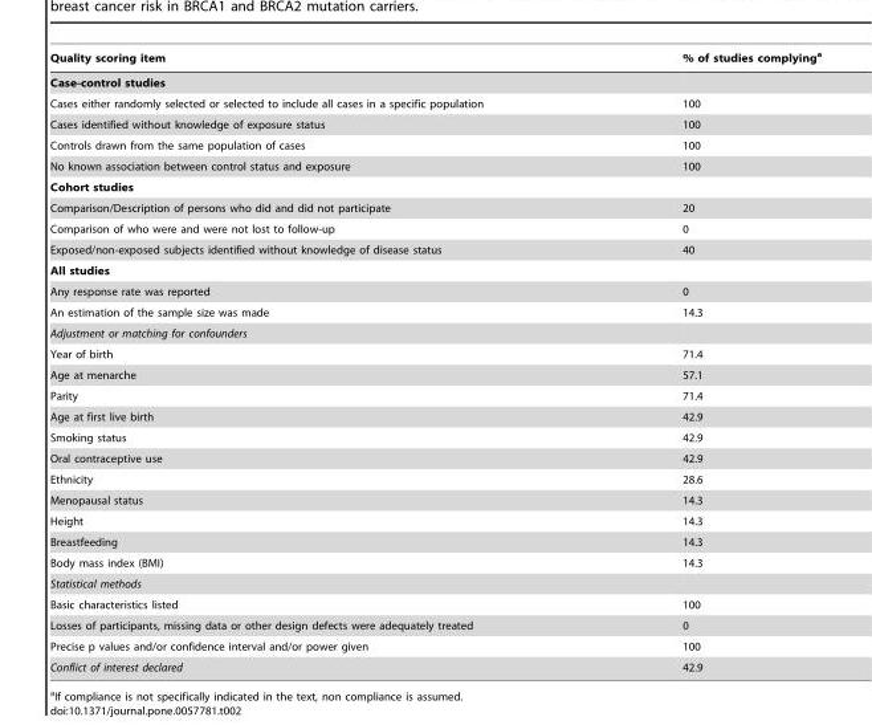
<table><thead><tr><td>Quality scoring item</td><td>% of studies complying<sup>a</sup></td></tr></thead><tbody><tr><td colspan="2">Case-control studies</td></tr><tr><td>Cases either randomly selected or selected to include all cases in a specific population</td><td>100</td></tr><tr><td>Cases identified without knowledge of exposure status</td><td>100</td></tr><tr><td>Controls drawn from the same population of cases</td><td>100</td></tr><tr><td>No known association between control status and exposure</td><td>100</td></tr><tr><td colspan="2">Cohort studies</td></tr><tr><td>Comparison/Description of persons who did and did not participate</td><td>20</td></tr><tr><td>Comparison of who were and were not lost to follow-up</td><td>0</td></tr><tr><td>Exposed/non-exposed subjects identified without knowledge of disease status</td><td>40</td></tr><tr><td colspan="2">All studies</td></tr><tr><td>Any response rate was reported</td><td>0</td></tr><tr><td>An estimation of the sample size was made</td><td>14.3</td></tr><tr><td colspan="2">Adjustment or matching for confounders</td></tr><tr><td>Year of birth</td><td>71.4</td></tr><tr><td>Age at menarche</td><td>57.1</td></tr><tr><td>Parity</td><td>71.4</td></tr><tr><td>Age at first live birth</td><td>42.9</td></tr><tr><td>Smoking status</td><td>42.9</td></tr><tr><td>Oral contraceptive use</td><td>42.9</td></tr><tr><td>Ethnicity</td><td>28.6</td></tr><tr><td>Menopausal status</td><td>14.3</td></tr><tr><td>Height</td><td>14.3</td></tr><tr><td>Breastfeeding</td><td>14.3</td></tr><tr><td>Body mass index (BMI)</td><td>14.3</td></tr><tr><td colspan="2">Statistical methods</td></tr><tr><td>Basic characteristics listed</td><td>100</td></tr><tr><td>Losses of participants, missing data or other design defects were adequately treated</td><td>0</td></tr><tr><td>Precise p values and/or confidence interval and/or power given</td><td>100</td></tr><tr><td>Conflict of interest declared</td><td>42.9</td></tr></tbody></table>